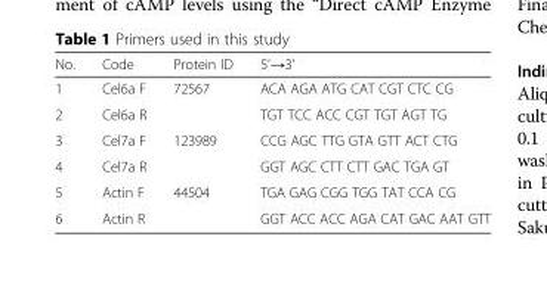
<table><thead><tr><td>No.</td><td>Code</td><td>Protein ID</td><td>5’→3’</td></tr></thead><tbody><tr><td>1</td><td>Cel6a F</td><td rowspan="2">72567</td><td>ACA AGA ATG CAT CGT CTC CG</td></tr><tr><td>2</td><td>Cel6a R</td><td>TGT TCC ACC CGT TGT AGT TG</td></tr><tr><td>3</td><td>Cel7a F</td><td rowspan="2">123989</td><td>CCG AGC TTG GTA GTT ACT CTG</td></tr><tr><td>4</td><td>Cel7a R</td><td>GGT AGC CTT CTT GAC TGA GT</td></tr><tr><td>5</td><td>Actin F</td><td rowspan="2">44504</td><td>TGA GAG CGG TGG TAT CCA CG</td></tr><tr><td>6</td><td>Actin R</td><td>GGT ACC ACC AGA CAT GAC AAT GTT</td></tr></tbody></table>